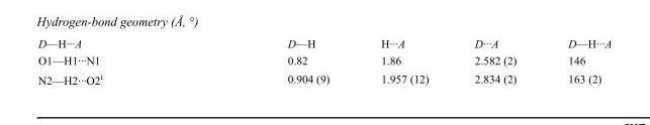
<table><tbody><tr><td>D—H···A</td><td>D—H</td><td>H···A</td><td>D···A</td><td>D—H···A</td></tr><tr><td>O1—H1···N1</td><td>0.82</td><td>1.86</td><td>2.582 (2)</td><td>146</td></tr><tr><td>N2—H2···O2<sup>i</sup></td><td>0.904 (9)</td><td>1.957 (12)</td><td>2.834 (2)</td><td>163 (2)</td></tr></tbody></table>